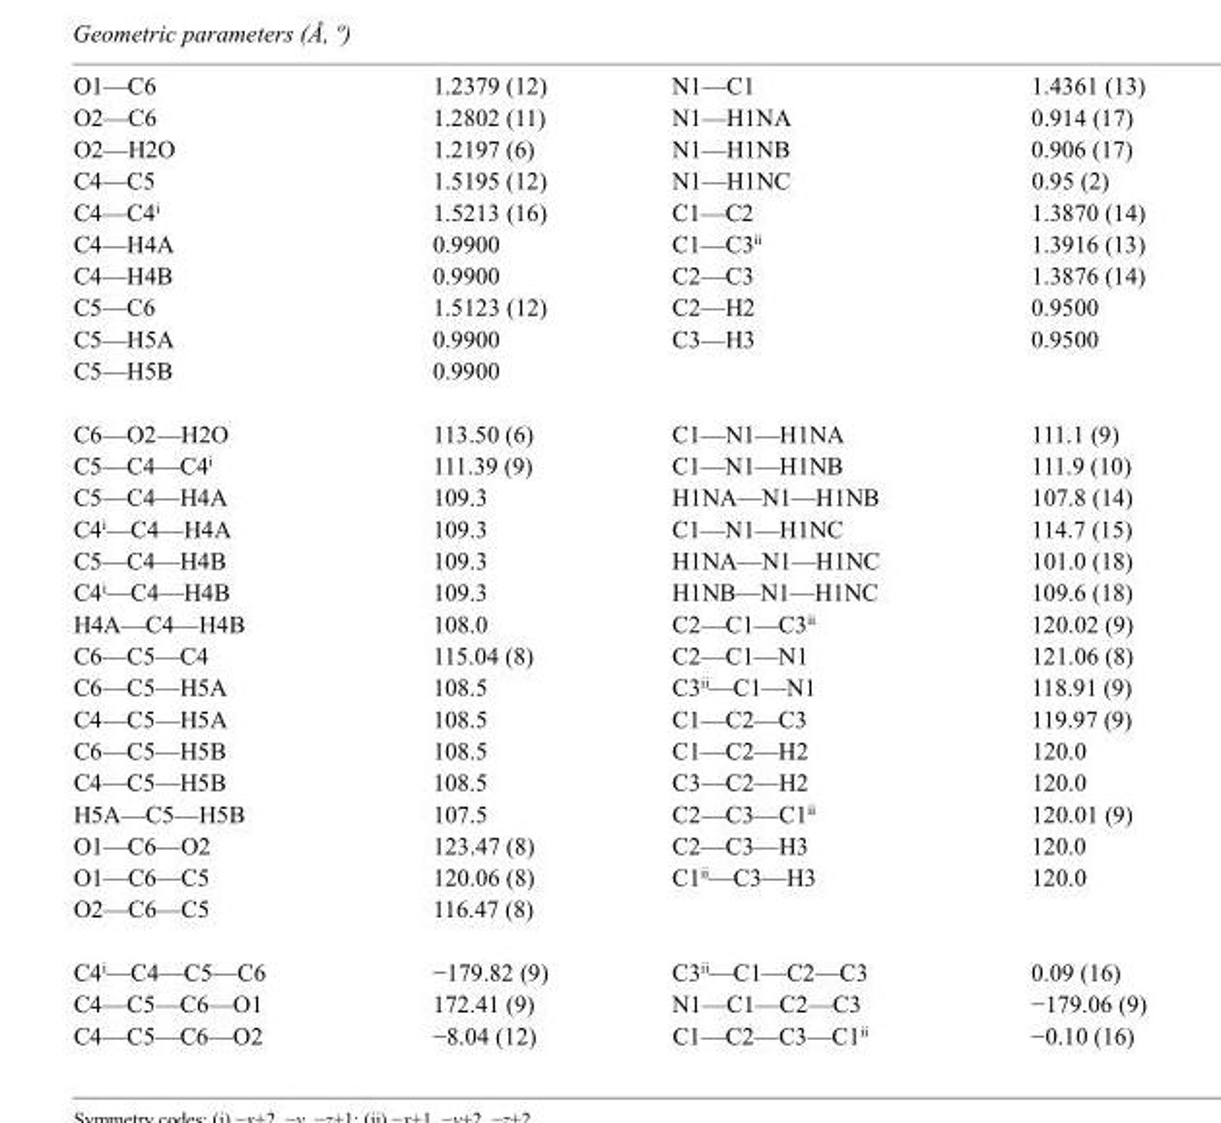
<table><tbody><tr><td>O1—C6</td><td>1.2379 (12)</td><td>N1—C1</td><td>1.4361 (13)</td></tr><tr><td>O2—C6</td><td>1.2802 (11)</td><td>N1—H1NA</td><td>0.914 (17)</td></tr><tr><td>O2—H2O</td><td>1.2197 (6)</td><td>N1—H1NB</td><td>0.906 (17)</td></tr><tr><td>C4—C5</td><td>1.5195 (12)</td><td>N1—H1NC</td><td>0.95 (2)</td></tr><tr><td>C4—C4<sup>i</sup></td><td>1.5213 (16)</td><td>C1—C2</td><td>1.3870 (14)</td></tr><tr><td>C4—H4A</td><td>0.9900</td><td>C1—C3<sup>ii</sup></td><td>1.3916 (13)</td></tr><tr><td>C4—H4B</td><td>0.9900</td><td>C2—C3</td><td>1.3876 (14)</td></tr><tr><td>C5—C6</td><td>1.5123 (12)</td><td>C2—H2</td><td>0.9500</td></tr><tr><td>C5—H5A</td><td>0.9900</td><td>C3—H3</td><td>0.9500</td></tr><tr><td>C5—H5B</td><td>0.9900</td><td></td><td></td></tr><tr><td>C6—O2—H2O</td><td>113.50 (6)</td><td>C1—N1—H1NA</td><td>111.1 (9)</td></tr><tr><td>C5—C4—C4<sup>i</sup></td><td>111.39 (9)</td><td>C1—N1—H1NB</td><td>111.9 (10)</td></tr><tr><td>C5—C4—H4A</td><td>109.3</td><td>H1NA—N1—H1NB</td><td>107.8 (14)</td></tr><tr><td>C4<sup>i</sup>—C4—H4A</td><td>109.3</td><td>C1—N1—H1NC</td><td>114.7 (15)</td></tr><tr><td>C5—C4—H4B</td><td>109.3</td><td>H1NA—N1—H1NC</td><td>101.0 (18)</td></tr><tr><td>C4<sup>i</sup>—C4—H4B</td><td>109.3</td><td>H1NB—N1—H1NC</td><td>109.6 (18)</td></tr><tr><td>H4A—C4—H4B</td><td>108.0</td><td>C2—C1—C3<sup>ii</sup></td><td>120.02 (9)</td></tr><tr><td>C6—C5—C4</td><td>115.04 (8)</td><td>C2—C1—N1</td><td>121.06 (8)</td></tr><tr><td>C6—C5—H5A</td><td>108.5</td><td>C3<sup>ii</sup>—C1—N1</td><td>118.91 (9)</td></tr><tr><td>C4—C5—H5A</td><td>108.5</td><td>C1—C2—C3</td><td>119.97 (9)</td></tr><tr><td>C6—C5—H5B</td><td>108.5</td><td>C1—C2—H2</td><td>120.0</td></tr><tr><td>C4—C5—H5B</td><td>108.5</td><td>C3—C2—H2</td><td>120.0</td></tr><tr><td>H5A—C5—H5B</td><td>107.5</td><td>C2—C3—C1<sup>ii</sup></td><td>120.01 (9)</td></tr><tr><td>O1—C6—O2</td><td>123.47 (8)</td><td>C2—C3—H3</td><td>120.0</td></tr><tr><td>O1—C6—C5</td><td>120.06 (8)</td><td>C1<sup>ii</sup>—C3—H3</td><td>120.0</td></tr><tr><td>O2—C6—C5</td><td>116.47 (8)</td><td></td><td></td></tr><tr><td>C4<sup>i</sup>—C4—C5—C6</td><td>−179.82 (9)</td><td>C3<sup>ii</sup>—C1—C2—C3</td><td>0.09 (16)</td></tr><tr><td>C4—C5—C6—O1</td><td>172.41 (9)</td><td>N1—C1—C2—C3</td><td>−179.06 (9)</td></tr><tr><td>C4—C5—C6—O2</td><td>−8.04 (12)</td><td>C1—C2—C3—C1<sup>ii</sup></td><td>−0.10 (16)</td></tr></tbody></table>